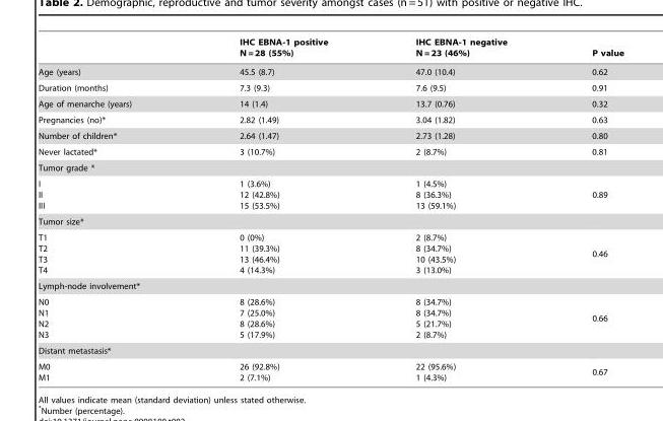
<table><thead><tr><td></td><td>IHC EBNA-1 positive N = 28 (55%)</td><td>IHC EBNA-1 negative N = 23 (46%)</td><td>P value</td></tr></thead><tbody><tr><td>Age (years)</td><td>45.5 (8.7)</td><td>47.0 (10.4)</td><td>0.62</td></tr><tr><td>Duration (months)</td><td>7.3 (9.3)</td><td>7.6 (9.5)</td><td>0.91</td></tr><tr><td>Age of menarche (years)</td><td>14 (1.4)</td><td>13.7 (0.76)</td><td>0.32</td></tr><tr><td>Pregnancies (no)*</td><td>2.82 (1.49)</td><td>3.04 (1.82)</td><td>0.63</td></tr><tr><td>Number of children*</td><td>2.64 (1.47)</td><td>2.73 (1.28)</td><td>0.80</td></tr><tr><td>Never lactated*</td><td>3 (10.7%)</td><td>2 (8.7%)</td><td>0.81</td></tr><tr><td colspan="4">Tumor grade *</td></tr><tr><td>I II III</td><td>1 (3.6%) 12 (42.8%) 15 (53.5%)</td><td>1 (4.5%) 8 (36.3%) 13 (59.1%)</td><td>0.89</td></tr><tr><td colspan="4">Tumor size*</td></tr><tr><td>T1 T2 T3 T4</td><td>0 (0%) 11 (39.3%) 13 (46.4%) 4 (14.3%)</td><td>2 (8.7%) 8 (34.7%) 10 (43.5%) 3 (13.0%)</td><td>0.46</td></tr><tr><td colspan="4">Lymph-node involvement*</td></tr><tr><td>N0 N1 N2 N3</td><td>8 (28.6%) 7 (25.0%) 8 (28.6%) 5 (17.9%)</td><td>8 (34.7%) 8 (34.7%) 5 (21.7%) 2 (8.7%)</td><td>0.66</td></tr><tr><td colspan="4">Distant metastasis*</td></tr><tr><td>M0 M1</td><td>26 (92.8%) 2 (7.1%)</td><td>22 (95.6%) 1 (4.3%)</td><td>0.67</td></tr></tbody></table>